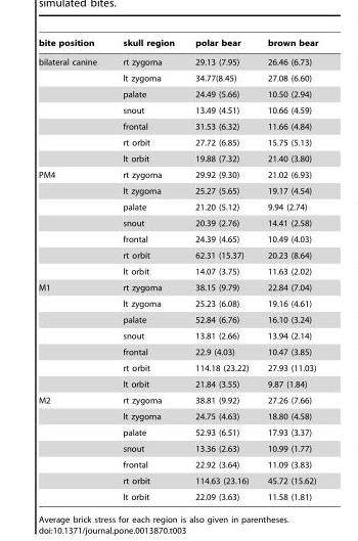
<table><thead><tr><td>bite position</td><td>skull region</td><td>polar bear</td><td>brown bear</td></tr></thead><tbody><tr><td rowspan="7">bilateral canine</td><td>rt zygoma</td><td>29.13 (7.95)</td><td>26.46 (6.73)</td></tr><tr><td>lt zygoma</td><td>34.77(8.45)</td><td>27.08 (6.60)</td></tr><tr><td>palate</td><td>24.49 (5.66)</td><td>10.50 (2.94)</td></tr><tr><td>snout</td><td>13.49 (4.51)</td><td>10.66 (4.59)</td></tr><tr><td>frontal</td><td>31.53 (6.32)</td><td>11.66 (4.84)</td></tr><tr><td>rt orbit</td><td>27.72 (6.85)</td><td>15.75 (5.13)</td></tr><tr><td>lt orbit</td><td>19.88 (7.32)</td><td>21.40 (3.80)</td></tr><tr><td rowspan="7">PM4</td><td>rt zygoma</td><td>29.92 (9.30)</td><td>21.02 (6.93)</td></tr><tr><td>lt zygoma</td><td>25.27 (5.65)</td><td>19.17 (4.54)</td></tr><tr><td>palate</td><td>21.20 (5.12)</td><td>9.94 (2.74)</td></tr><tr><td>snout</td><td>20.39 (2.76)</td><td>14.41 (2.58)</td></tr><tr><td>frontal</td><td>24.39 (4.65)</td><td>10.49 (4.03)</td></tr><tr><td>rt orbit</td><td>62.31 (15.37)</td><td>20.23 (8.64)</td></tr><tr><td>lt orbit</td><td>14.07 (3.75)</td><td>11.63 (2.02)</td></tr><tr><td rowspan="7">M1</td><td>rt zygoma</td><td>38.15 (9.79)</td><td>22.84 (7.04)</td></tr><tr><td>lt zygoma</td><td>25.23 (6.08)</td><td>19.16 (4.61)</td></tr><tr><td>palate</td><td>52.84 (6.76)</td><td>16.10 (3.24)</td></tr><tr><td>snout</td><td>13.81 (2.66)</td><td>13.94 (2.14)</td></tr><tr><td>frontal</td><td>22.9 (4.03)</td><td>10.47 (3.85)</td></tr><tr><td>rt orbit</td><td>114.18 (23.22)</td><td>27.93 (11.03)</td></tr><tr><td>lt orbit</td><td>21.84 (3.55)</td><td>9.87 (1.84)</td></tr><tr><td rowspan="7">M2</td><td>rt zygoma</td><td>38.81 (9.92)</td><td>27.26 (7.66)</td></tr><tr><td>lt zygoma</td><td>24.75 (4.63)</td><td>18.80 (4.58)</td></tr><tr><td>palate</td><td>52.93 (6.51)</td><td>17.93 (3.37)</td></tr><tr><td>snout</td><td>13.36 (2.63)</td><td>10.99 (1.77)</td></tr><tr><td>frontal</td><td>22.92 (3.64)</td><td>11.09 (3.83)</td></tr><tr><td>rt orbit</td><td>114.63 (23.16)</td><td>45.72 (15.62)</td></tr><tr><td>lt orbit</td><td>22.09 (3.63)</td><td>11.58 (1.81)</td></tr></tbody></table>